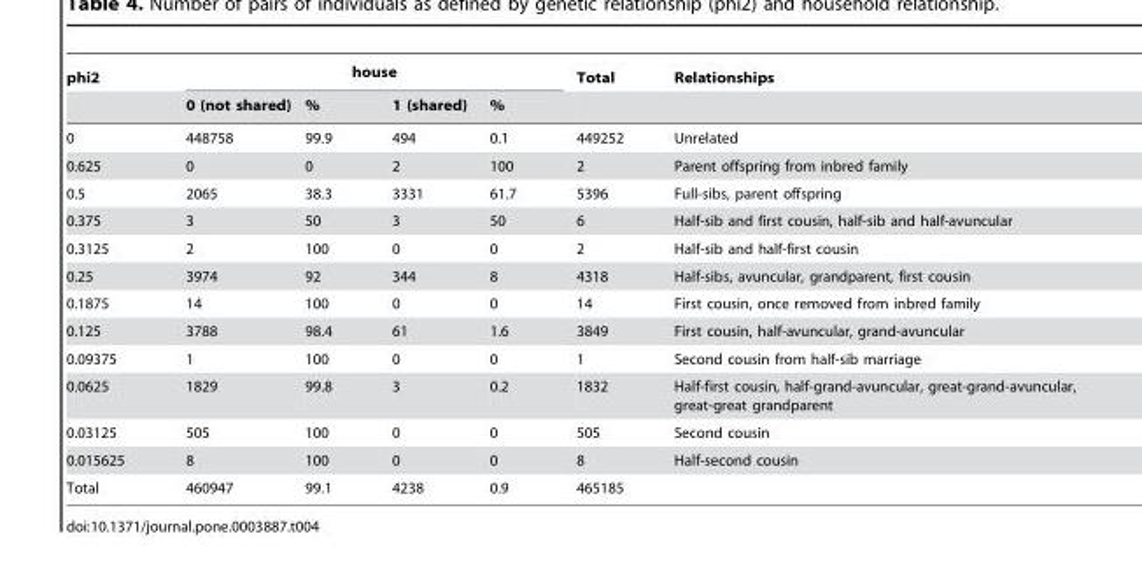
<table><thead><tr><td rowspan="2">phi2</td><td colspan="4">house</td><td rowspan="2">Total</td><td rowspan="2">Relationships</td></tr><tr><td>0 (not shared)</td><td>%</td><td>1 (shared)</td><td>%</td></tr></thead><tbody><tr><td>0</td><td>448758</td><td>99.9</td><td>494</td><td>0.1</td><td>449252</td><td>Unrelated</td></tr><tr><td>0.625</td><td>0</td><td>0</td><td>2</td><td>100</td><td>2</td><td>Parent offspring from inbred family</td></tr><tr><td>0.5</td><td>2065</td><td>38.3</td><td>3331</td><td>61.7</td><td>5396</td><td>Full-sibs, parent offspring</td></tr><tr><td>0.375</td><td>3</td><td>50</td><td>3</td><td>50</td><td>6</td><td>Half-sib and first cousin, half-sib and half-avuncular</td></tr><tr><td>0.3125</td><td>2</td><td>100</td><td>0</td><td>0</td><td>2</td><td>Half-sib and half-first cousin</td></tr><tr><td>0.25</td><td>3974</td><td>92</td><td>344</td><td>8</td><td>4318</td><td>Half-sibs, avuncular, grandparent, first cousin</td></tr><tr><td>0.1875</td><td>14</td><td>100</td><td>0</td><td>0</td><td>14</td><td>First cousin, once removed from inbred family</td></tr><tr><td>0.125</td><td>3788</td><td>98.4</td><td>61</td><td>1.6</td><td>3849</td><td>First cousin, half-avuncular, grand-avuncular</td></tr><tr><td>0.09375</td><td>1</td><td>100</td><td>0</td><td>0</td><td>1</td><td>Second cousin from half-sib marriage</td></tr><tr><td>0.0625</td><td>1829</td><td>99.8</td><td>3</td><td>0.2</td><td>1832</td><td>Half-first cousin, half-grand-avuncular, great-grand-avuncular, great-great grandparent</td></tr><tr><td>0.03125</td><td>505</td><td>100</td><td>0</td><td>0</td><td>505</td><td>Second cousin</td></tr><tr><td>0.015625</td><td>8</td><td>100</td><td>0</td><td>0</td><td>8</td><td>Half-second cousin</td></tr><tr><td>Total</td><td>460947</td><td>99.1</td><td>4238</td><td>0.9</td><td>465185</td><td></td></tr></tbody></table>